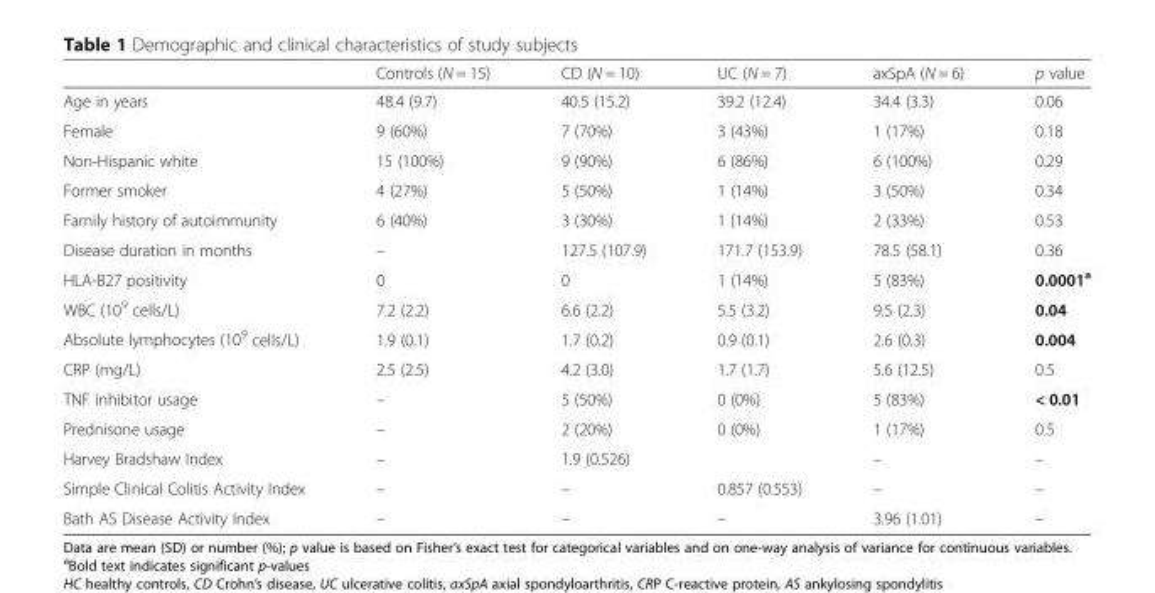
<table><thead><tr><td></td><td>Controls (N = 15)</td><td>CD (N = 10)</td><td>UC (N = 7)</td><td>axSpA (N = 6)</td><td>p value</td></tr></thead><tbody><tr><td>Age in years</td><td>48.4 (9.7)</td><td>40.5 (15.2)</td><td>39.2 (12.4)</td><td>34.4 (3.3)</td><td>0.06</td></tr><tr><td>Female</td><td>9 (60%)</td><td>7 (70%)</td><td>3 (43%)</td><td>1 (17%)</td><td>0.18</td></tr><tr><td>Non-Hispanic white</td><td>15 (100%)</td><td>9 (90%)</td><td>6 (86%)</td><td>6 (100%)</td><td>0.29</td></tr><tr><td>Former smoker</td><td>4 (27%)</td><td>5 (50%)</td><td>1 (14%)</td><td>3 (50%)</td><td>0.34</td></tr><tr><td>Family history of autoimmunity</td><td>6 (40%)</td><td>3 (30%)</td><td>1 (14%)</td><td>2 (33%)</td><td>0.53</td></tr><tr><td>Disease duration in months</td><td>–</td><td>127.5 (107.9)</td><td>171.7 (153.9)</td><td>78.5 (58.1)</td><td>0.36</td></tr><tr><td>HLA-B27 positivity</td><td>0</td><td>0</td><td>1 (14%)</td><td>5 (83%)</td><td>0.0001<sup>a</sup></td></tr><tr><td>WBC (10<sup>9</sup> cells/L)</td><td>7.2 (2.2)</td><td>6.6 (2.2)</td><td>5.5 (3.2)</td><td>9.5 (2.3)</td><td>0.04</td></tr><tr><td>Absolute lymphocytes (10<sup>9</sup> cells/L)</td><td>1.9 (0.1)</td><td>1.7 (0.2)</td><td>0.9 (0.1)</td><td>2.6 (0.3)</td><td>0.004</td></tr><tr><td>CRP (mg/L)</td><td>2.5 (2.5)</td><td>4.2 (3.0)</td><td>1.7 (1.7)</td><td>5.6 (12.5)</td><td>0.5</td></tr><tr><td>TNF inhibitor usage</td><td>–</td><td>5 (50%)</td><td>0 (0%)</td><td>5 (83%)</td><td>&lt; 0.01</td></tr><tr><td>Prednisone usage</td><td>–</td><td>2 (20%)</td><td>0 (0%)</td><td>1 (17%)</td><td>0.5</td></tr><tr><td>Harvey Bradshaw Index</td><td>–</td><td>1.9 (0.526)</td><td></td><td>–</td><td>–</td></tr><tr><td>Simple Clinical Colitis Activity Index</td><td>–</td><td>–</td><td>0.857 (0.553)</td><td>–</td><td>–</td></tr><tr><td>Bath AS Disease Activity Index</td><td>–</td><td>–</td><td>–</td><td>3.96 (1.01)</td><td>–</td></tr></tbody></table>